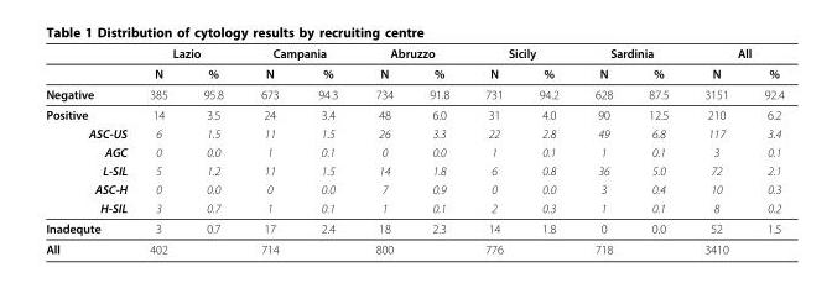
<table><thead><tr><td rowspan="2"></td><td colspan="2">Lazio</td><td colspan="2">Campania</td><td colspan="2">Abruzzo</td><td colspan="2">Sicily</td><td colspan="2">Sardinia</td><td colspan="2">All</td></tr><tr><td>N</td><td>%</td><td>N</td><td>%</td><td>N</td><td>%</td><td>N</td><td>%</td><td>N</td><td>%</td><td>N</td><td>%</td></tr></thead><tbody><tr><td>Negative</td><td>385</td><td>95.8</td><td>673</td><td>94.3</td><td>734</td><td>91.8</td><td>731</td><td>94.2</td><td>628</td><td>87.5</td><td>3151</td><td>92.4</td></tr><tr><td>Positive</td><td>14</td><td>3.5</td><td>24</td><td>3.4</td><td>48</td><td>6.0</td><td>31</td><td>4.0</td><td>90</td><td>12.5</td><td>210</td><td>6.2</td></tr><tr><td>ASC-US</td><td>6</td><td>1.5</td><td>11</td><td>1.5</td><td>26</td><td>3.3</td><td>22</td><td>2.8</td><td>49</td><td>6.8</td><td>117</td><td>3.4</td></tr><tr><td>AGC</td><td>0</td><td>0.0</td><td>1</td><td>0.1</td><td>0</td><td>0.0</td><td>1</td><td>0.1</td><td>1</td><td>0.1</td><td>3</td><td>0.1</td></tr><tr><td>L-SIL</td><td>5</td><td>1.2</td><td>11</td><td>1.5</td><td>14</td><td>1.8</td><td>6</td><td>0.8</td><td>36</td><td>5.0</td><td>72</td><td>2.1</td></tr><tr><td>ASC-H</td><td>0</td><td>0.0</td><td>0</td><td>0.0</td><td>7</td><td>0.9</td><td>0</td><td>0.0</td><td>3</td><td>0.4</td><td>10</td><td>0.3</td></tr><tr><td>H-SIL</td><td>3</td><td>0.7</td><td>1</td><td>0.1</td><td>1</td><td>0.1</td><td>2</td><td>0.3</td><td>1</td><td>0.1</td><td>8</td><td>0.2</td></tr><tr><td>Inadequte</td><td>3</td><td>0.7</td><td>17</td><td>2.4</td><td>18</td><td>2.3</td><td>14</td><td>1.8</td><td>0</td><td>0.0</td><td>52</td><td>1.5</td></tr><tr><td>All</td><td>402</td><td></td><td>714</td><td></td><td>800</td><td></td><td>776</td><td></td><td>718</td><td></td><td>3410</td><td></td></tr></tbody></table>